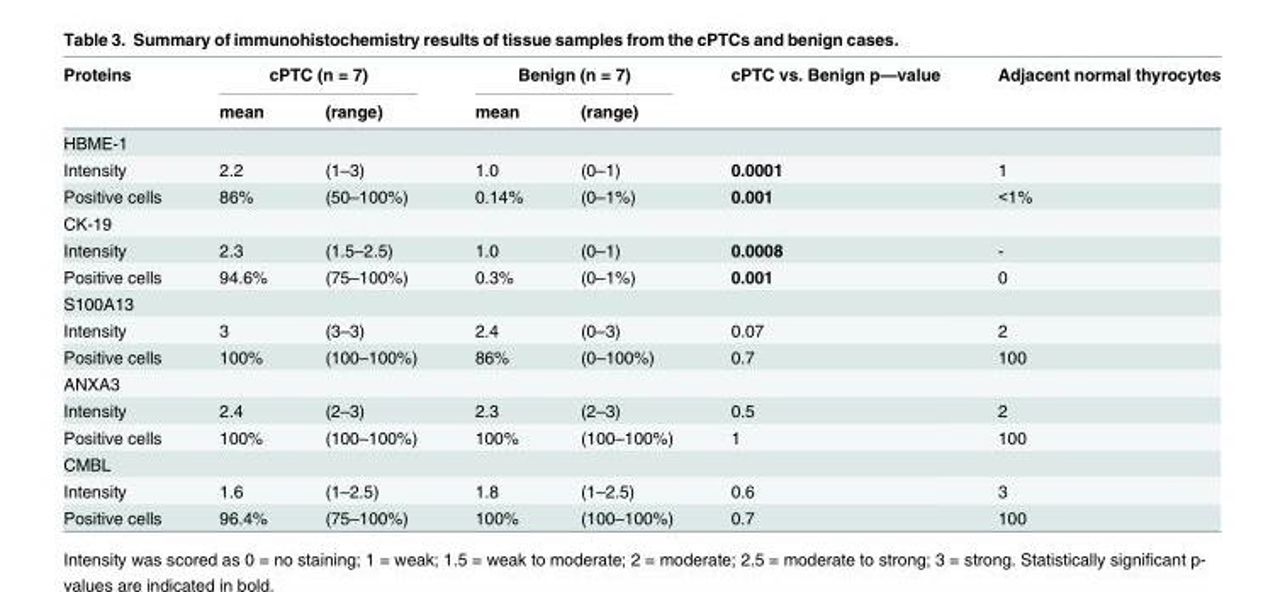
<table><thead><tr><td rowspan="2">Proteins</td><td colspan="2">cPTC (n = 7)</td><td colspan="2">Benign (n = 7)</td><td rowspan="2">cPTC vs. Benign p—value</td><td rowspan="2">Adjacent normal thyrocytes</td></tr><tr><td>mean</td><td>(range)</td><td>mean</td><td>(range)</td></tr></thead><tbody><tr><td colspan="7">HBME-1</td></tr><tr><td>Intensity</td><td>2.2</td><td>(1–3)</td><td>1.0</td><td>(0–1)</td><td>0.0001</td><td>1</td></tr><tr><td>Positive cells</td><td>86%</td><td>(50–100%)</td><td>0.14%</td><td>(0–1%)</td><td>0.001</td><td>&lt;1%</td></tr><tr><td colspan="7">CK-19</td></tr><tr><td>Intensity</td><td>2.3</td><td>(1.5–2.5)</td><td>1.0</td><td>(0–1)</td><td>0.0008</td><td>-</td></tr><tr><td>Positive cells</td><td>94.6%</td><td>(75–100%)</td><td>0.3%</td><td>(0–1%)</td><td>0.001</td><td>0</td></tr><tr><td colspan="7">S100A13</td></tr><tr><td>Intensity</td><td>3</td><td>(3–3)</td><td>2.4</td><td>(0–3)</td><td>0.07</td><td>2</td></tr><tr><td>Positive cells</td><td>100%</td><td>(100–100%)</td><td>86%</td><td>(0–100%)</td><td>0.7</td><td>100</td></tr><tr><td colspan="7">ANXA3</td></tr><tr><td>Intensity</td><td>2.4</td><td>(2–3)</td><td>2.3</td><td>(2–3)</td><td>0.5</td><td>2</td></tr><tr><td>Positive cells</td><td>100%</td><td>(100–100%)</td><td>100%</td><td>(100–100%)</td><td>1</td><td>100</td></tr><tr><td colspan="7">CMBL</td></tr><tr><td>Intensity</td><td>1.6</td><td>(1–2.5)</td><td>1.8</td><td>(1–2.5)</td><td>0.6</td><td>3</td></tr><tr><td>Positive cells</td><td>96.4%</td><td>(75–100%)</td><td>100%</td><td>(100–100%)</td><td>0.7</td><td>100</td></tr></tbody></table>